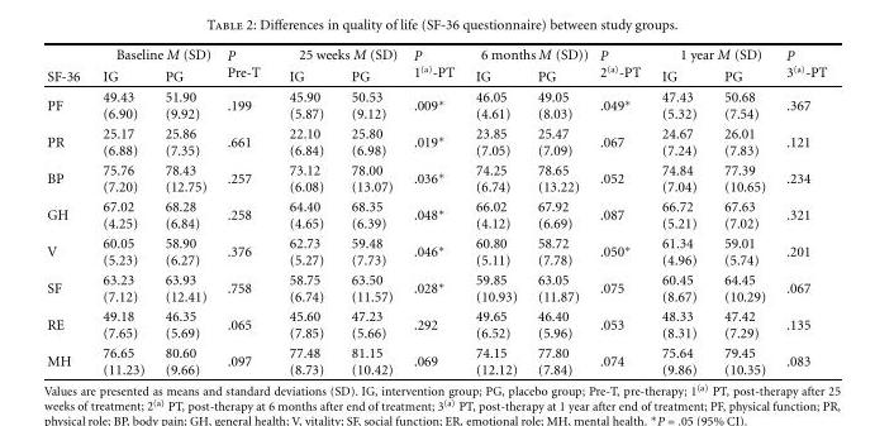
<table><thead><tr><td rowspan="2">SF-36</td><td colspan="2">Baseline M (SD)</td><td rowspan="2">P Pre-T</td><td colspan="2">25 weeks M (SD)</td><td rowspan="2">P 1<sup>(a)</sup>-PT</td><td colspan="2">6 months M (SD))</td><td rowspan="2">P 2<sup>(a)</sup>-PT</td><td colspan="2">1 year M (SD)</td><td rowspan="2">P 3<sup>(a)</sup>-PT</td></tr><tr><td>IG</td><td>PG</td><td>IG</td><td>PG</td><td>IG</td><td>PG</td><td>IG</td><td>PG</td></tr></thead><tbody><tr><td>PF</td><td>49.43 (6.90)</td><td>51.90 (9.92)</td><td>.199</td><td>45.90 (5.87)</td><td>50.53 (9.12)</td><td>.009∗</td><td>46.05 (4.61)</td><td>49.05 (8.03)</td><td>.049∗</td><td>47.43 (5.32)</td><td>50.68 (7.54)</td><td>.367</td></tr><tr><td>PR</td><td>25.17 (6.88)</td><td>25.86 (7.35)</td><td>.661</td><td>22.10 (6.84)</td><td>25.80 (6.98)</td><td>.019∗</td><td>23.85 (7.05)</td><td>25.47 (7.09)</td><td>.067</td><td>24.67 (7.24)</td><td>26.01 (7.83)</td><td>.121</td></tr><tr><td>BP</td><td>75.76 (7.20)</td><td>78.43 (12.75)</td><td>.257</td><td>73.12 (6.08)</td><td>78.00 (13.07)</td><td>.036∗</td><td>74.25 (6.74)</td><td>78.65 (13.22)</td><td>.052</td><td>74.84 (7.04)</td><td>77.39 (10.65)</td><td>.234</td></tr><tr><td>GH</td><td>67.02 (4.25)</td><td>68.28 (6.84)</td><td>.258</td><td>64.40 (4.65)</td><td>68.35 (6.39)</td><td>.048∗</td><td>66.02 (4.12)</td><td>67.92 (6.69)</td><td>.087</td><td>66.72 (5.21)</td><td>67.63 (7.02)</td><td>.321</td></tr><tr><td>V</td><td>60.05 (5.23)</td><td>58.90 (6.27)</td><td>.376</td><td>62.73 (5.27)</td><td>59.48 (7.73)</td><td>.046∗</td><td>60.80 (5.11)</td><td>58.72 (7.78)</td><td>.050∗</td><td>61.34 (4.96)</td><td>59.01 (5.74)</td><td>.201</td></tr><tr><td>SF</td><td>63.23 (7.12)</td><td>63.93 (12.41)</td><td>.758</td><td>58.75 (6.74)</td><td>63.50 (11.57)</td><td>.028∗</td><td>59.85 (10.93)</td><td>63.05 (11.87)</td><td>.075</td><td>60.45 (8.67)</td><td>64.45 (10.29)</td><td>.067</td></tr><tr><td>RE</td><td>49.18 (7.65)</td><td>46.35 (5.69)</td><td>.065</td><td>45.60 (7.85)</td><td>47.23 (5.66)</td><td>.292</td><td>49.65 (6.52)</td><td>46.40 (5.96)</td><td>.053</td><td>48.33 (8.31)</td><td>47.42 (7.29)</td><td>.135</td></tr><tr><td>MH</td><td>76.65 (11.23)</td><td>80.60 (9.66)</td><td>.097</td><td>77.48 (8.73)</td><td>81.15 (10.42)</td><td>.069</td><td>74.15 (12.12)</td><td>77.80 (7.84)</td><td>.074</td><td>75.64 (9.86)</td><td>79.45 (10.35)</td><td>.083</td></tr></tbody></table>